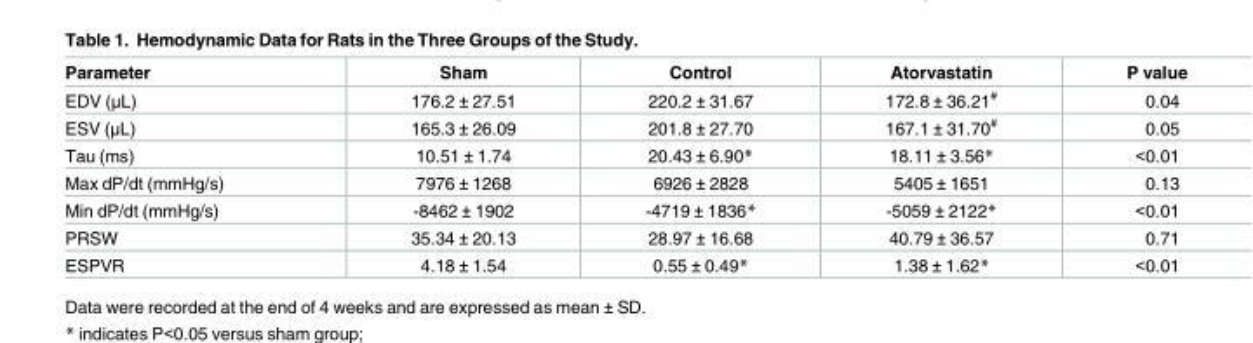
<table><thead><tr><td>Parameter</td><td>Sham</td><td>Control</td><td>Atorvastatin</td><td>P value</td></tr></thead><tbody><tr><td>EDV (μL)</td><td>176.2 ± 27.51</td><td>220.2 ± 31.67</td><td>172.8 ± 36.21<sup>#</sup></td><td>0.04</td></tr><tr><td>ESV (μL)</td><td>165.3 ± 26.09</td><td>201.8 ± 27.70</td><td>167.1 ± 31.70<sup>#</sup></td><td>0.05</td></tr><tr><td>Tau (ms)</td><td>10.51 ± 1.74</td><td>20.43 ± 6.90*</td><td>18.11 ± 3.56*</td><td>&lt;0.01</td></tr><tr><td>Max dP/dt (mmHg/s)</td><td>7976 ± 1268</td><td>6926 ± 2828</td><td>5405 ± 1651</td><td>0.13</td></tr><tr><td>Min dP/dt (mmHg/s)</td><td>-8462 ± 1902</td><td>-4719 ± 1836*</td><td>-5059 ± 2122*</td><td>&lt;0.01</td></tr><tr><td>PRSW</td><td>35.34 ± 20.13</td><td>28.97 ± 16.68</td><td>40.79 ± 36.57</td><td>0.71</td></tr><tr><td>ESPVR</td><td>4.18 ± 1.54</td><td>0.55 ± 0.49*</td><td>1.38 ± 1.62*</td><td>&lt;0.01</td></tr></tbody></table>